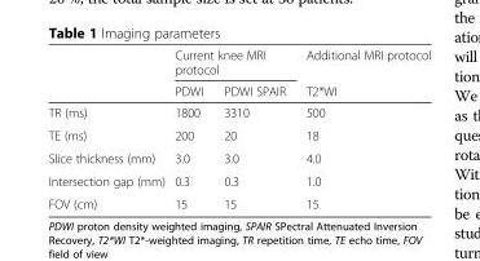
<table><thead><tr><td rowspan="2"></td><td colspan="2">Current knee MRI protocol</td><td rowspan="2">Additional MRI protocol T2*WI</td></tr><tr><td>PDWI</td><td>PDWI SPAIR</td></tr></thead><tbody><tr><td>TR (ms)</td><td>1800</td><td>3310</td><td>500</td></tr><tr><td>TE (ms)</td><td>200</td><td>20</td><td>18</td></tr><tr><td>Slice thickness (mm)</td><td>3.0</td><td>3.0</td><td>4.0</td></tr><tr><td>Intersection gap (mm)</td><td>0.3</td><td>0.3</td><td>1.0</td></tr><tr><td>FOV (cm)</td><td>15</td><td>15</td><td>15</td></tr></tbody></table>